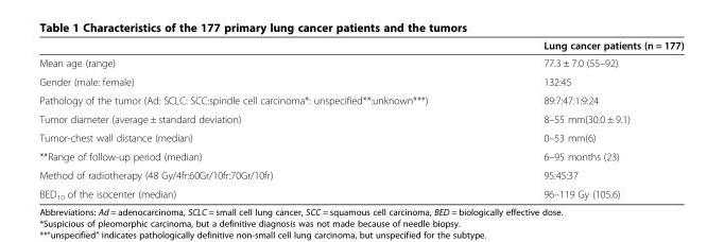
<table><thead><tr><td></td><td>Lung cancer patients (n = 177)</td></tr></thead><tbody><tr><td>Mean age (range)</td><td>77.3 ± 7.0 (55–92)</td></tr><tr><td>Gender (male: female)</td><td>132:45</td></tr><tr><td>Pathology of the tumor (Ad: SCLC: SCC:spindle cell carcinoma*: unspecified**:unknown***)</td><td>89:7:47:1:9:24</td></tr><tr><td>Tumor diameter (average ± standard deviation)</td><td>8–55 mm(30.0 ± 9.1)</td></tr><tr><td>Tumor-chest wall distance (median)</td><td>0–53 mm(6)</td></tr><tr><td>**Range of follow-up period (median)</td><td>6–95 months (23)</td></tr><tr><td>Method of radiotherapy (48 Gy/4fr:60Gr/10fr:70Gr/10fr)</td><td>95:45:37</td></tr><tr><td>BED<sub>10</sub> of the isocenter (median)</td><td>96–119 Gy (105.6)</td></tr></tbody></table>